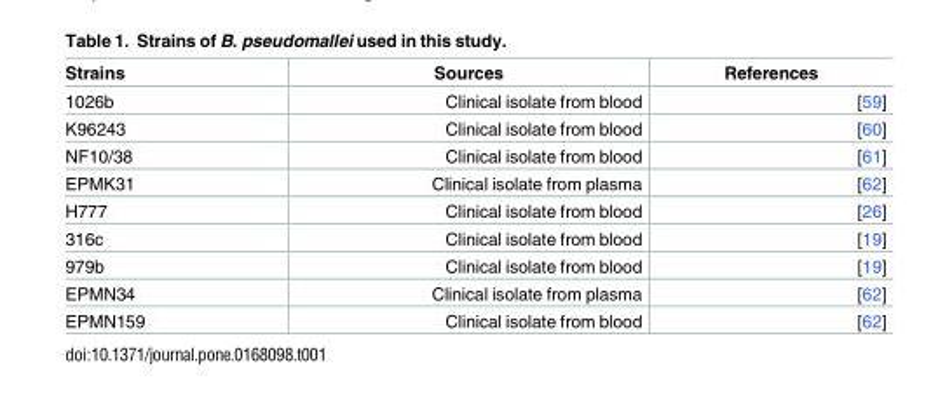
<table><thead><tr><td>Strains</td><td>Sources</td><td>References</td></tr></thead><tbody><tr><td>1026b</td><td>Clinical isolate from blood</td><td>[59]</td></tr><tr><td>K96243</td><td>Clinical isolate from blood</td><td>[60]</td></tr><tr><td>NF10/38</td><td>Clinical isolate from blood</td><td>[61]</td></tr><tr><td>EPMK31</td><td>Clinical isolate from plasma</td><td>[62]</td></tr><tr><td>H777</td><td>Clinical isolate from blood</td><td>[26]</td></tr><tr><td>316c</td><td>Clinical isolate from blood</td><td>[19]</td></tr><tr><td>979b</td><td>Clinical isolate from blood</td><td>[19]</td></tr><tr><td>EPMN34</td><td>Clinical isolate from plasma</td><td>[62]</td></tr><tr><td>EPMN159</td><td>Clinical isolate from blood</td><td>[62]</td></tr></tbody></table>